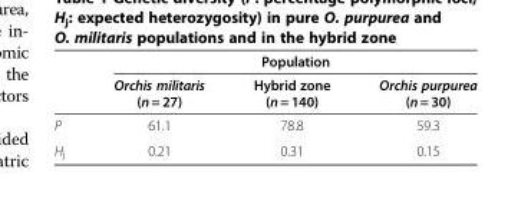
<table><thead><tr><td rowspan="2"></td><td colspan="3">Population</td></tr><tr><td>Orchis militaris (n = 27)</td><td>Hybrid zone (n = 140)</td><td>Orchis purpurea (n = 30)</td></tr></thead><tbody><tr><td>P</td><td>61.1</td><td>78.8</td><td>59.3</td></tr><tr><td>H<sub>j</sub></td><td>0.21</td><td>0.31</td><td>0.15</td></tr></tbody></table>